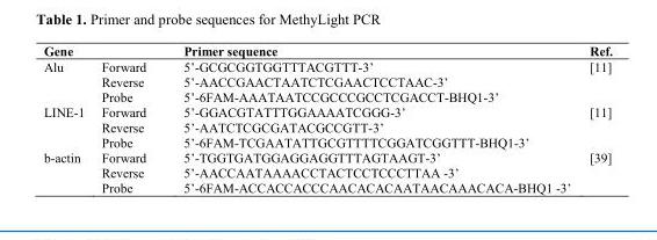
<table><thead><tr><td>Gene</td><td></td><td>Primer sequence</td><td>Ref.</td></tr></thead><tbody><tr><td>Alu</td><td>Forward Reverse Probe</td><td>5’-GCGCGGTGGTTTACGTTT-3’ 5’-AACCGAACTAATCTCGAACTCCTAAC-3’ 5’-6FAM-AAATAATCCGCCCGCCTCGACCT-BHQ1-3’</td><td>[11]</td></tr><tr><td>LINE-1 b-actin</td><td>Forward Reverse Probe Forward Reverse Probe</td><td>5’-GGACGTATTTGGAAAATCGGG-3’ 5’-AATCTCGCGATACGCCGTT-3’ 5’-6FAM-TCGAATATTGCGTTTTCGGATCGGTTT-BHQ1-3’ 5’-TGGTGATGGAGGAGGTTTAGTAAGT-3’ 5’-AACCAATAAAACCTACTCCTCCCTTAA -3’ 5’-6FAM-ACCACCACCCAACACACAATAACAAACACA-BHQ1 -3’</td><td>[11] [39]</td></tr></tbody></table>